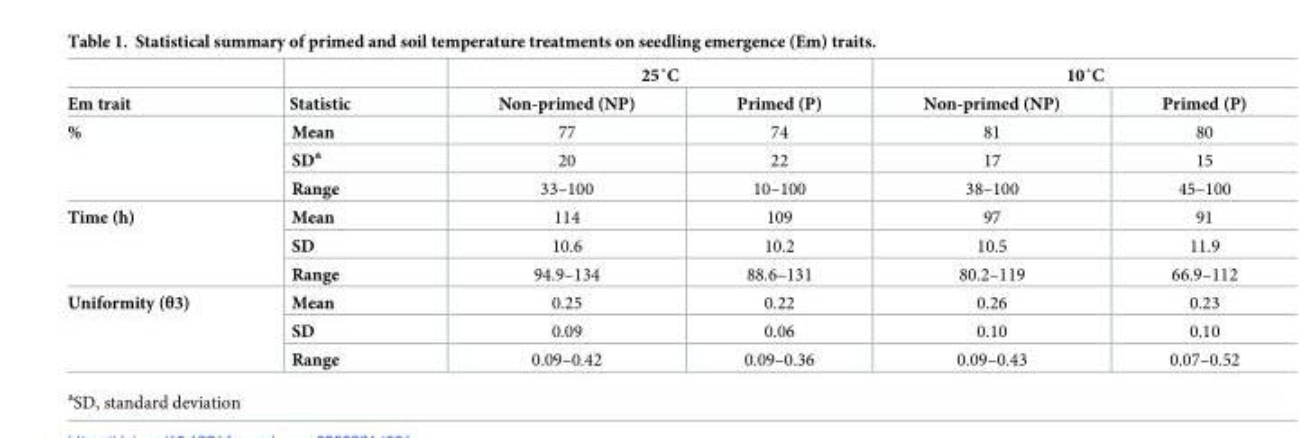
<table><thead><tr><td rowspan="2">Em trait</td><td rowspan="2">Statistic</td><td colspan="2">25˚C</td><td colspan="2">10˚C</td></tr><tr><td>Non-primed (NP)</td><td>Primed (P)</td><td>Non-primed (NP)</td><td>Primed (P)</td></tr></thead><tbody><tr><td rowspan="3">%</td><td>Mean</td><td>77</td><td>74</td><td>81</td><td>80</td></tr><tr><td>SD<sup>a</sup></td><td>20</td><td>22</td><td>17</td><td>15</td></tr><tr><td>Range</td><td>33–100</td><td>10–100</td><td>38–100</td><td>45–100</td></tr><tr><td rowspan="3">Time (h)</td><td>Mean</td><td>114</td><td>109</td><td>97</td><td>91</td></tr><tr><td>SD</td><td>10.6</td><td>10.2</td><td>10.5</td><td>11.9</td></tr><tr><td>Range</td><td>94.9–134</td><td>88.6–131</td><td>80.2–119</td><td>66.9–112</td></tr><tr><td rowspan="3">Uniformity (θ3)</td><td>Mean</td><td>0.25</td><td>0.22</td><td>0.26</td><td>0.23</td></tr><tr><td>SD</td><td>0.09</td><td>0.06</td><td>0.10</td><td>0.10</td></tr><tr><td>Range</td><td>0.09–0.42</td><td>0.09–0.36</td><td>0.09–0.43</td><td>0.07–0.52</td></tr></tbody></table>